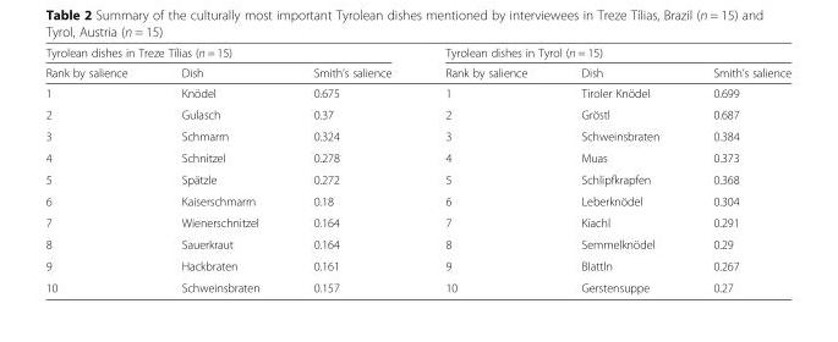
<table><thead><tr><td colspan="3">Tyrolean dishes in Treze Tílias (n = 15)</td><td colspan="3">Tyrolean dishes in Tyrol (n = 15)</td></tr><tr><td>Rank by salience</td><td>Dish</td><td>Smith’s salience</td><td>Rank by salience</td><td>Dish</td><td>Smith’s salience</td></tr></thead><tbody><tr><td>1</td><td>Knödel</td><td>0.675</td><td>1</td><td>Tiroler Knödel</td><td>0.699</td></tr><tr><td>2</td><td>Gulasch</td><td>0.37</td><td>2</td><td>Gröstl</td><td>0.687</td></tr><tr><td>3</td><td>Schmarrn</td><td>0.324</td><td>3</td><td>Schweinsbraten</td><td>0.384</td></tr><tr><td>4</td><td>Schnitzel</td><td>0.278</td><td>4</td><td>Muas</td><td>0.373</td></tr><tr><td>5</td><td>Spätzle</td><td>0.272</td><td>5</td><td>Schlipfkrapfen</td><td>0.368</td></tr><tr><td>6</td><td>Kaiserschmarrn</td><td>0.18</td><td>6</td><td>Leberknödel</td><td>0.304</td></tr><tr><td>7</td><td>Wienerschnitzel</td><td>0.164</td><td>7</td><td>Kiachl</td><td>0.291</td></tr><tr><td>8</td><td>Sauerkraut</td><td>0.164</td><td>8</td><td>Semmelknödel</td><td>0.29</td></tr><tr><td>9</td><td>Hackbraten</td><td>0.161</td><td>9</td><td>Blattln</td><td>0.267</td></tr><tr><td>10</td><td>Schweinsbraten</td><td>0.157</td><td>10</td><td>Gerstensuppe</td><td>0.27</td></tr></tbody></table>